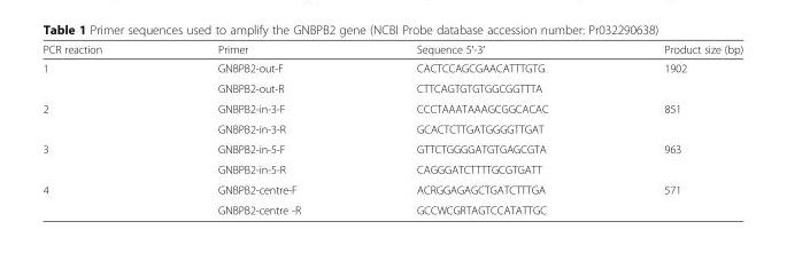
<table><thead><tr><td>PCR reaction</td><td>Primer</td><td>Sequence 5′-3′</td><td>Product size (bp)</td></tr></thead><tbody><tr><td rowspan="2">1</td><td>GNBPB2-out-F</td><td>CACTCCAGCGAACATTTGTG</td><td rowspan="2">1902</td></tr><tr><td>GNBPB2-out-R</td><td>CTTCAGTGTGTGGCGGTTTA</td></tr><tr><td rowspan="2">2</td><td>GNBPB2-in-3-F</td><td>CCCTAAATAAAGCGGCACAC</td><td rowspan="2">851</td></tr><tr><td>GNBPB2-in-3-R</td><td>GCACTCTTGATGGGGTTGAT</td></tr><tr><td rowspan="2">3</td><td>GNBPB2-in-5-F</td><td>GTTCTGGGGATGTGAGCGTA</td><td rowspan="2">963</td></tr><tr><td>GNBPB2-in-5-R</td><td>CAGGGATCTTTTGCGTGATT</td></tr><tr><td rowspan="2">4</td><td>GNBPB2-centre-F</td><td>ACRGGAGAGCTGATCTTTGA</td><td rowspan="2">571</td></tr><tr><td>GNBPB2-centre -R</td><td>GCCWCGRTAGTCCATATTGC</td></tr></tbody></table>